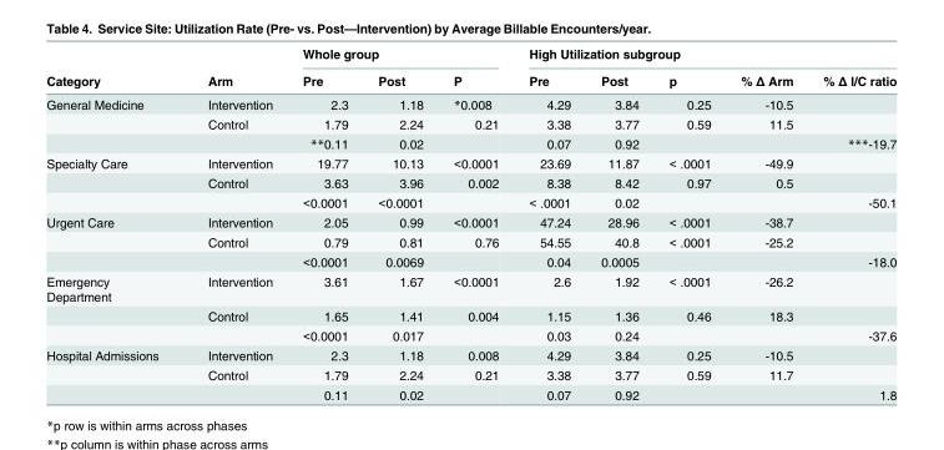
<table><thead><tr><td rowspan="2">Category</td><td rowspan="2">Arm</td><td colspan="3">Whole group</td><td colspan="5">High Utilization subgroup</td></tr><tr><td>Pre</td><td>Post</td><td>P</td><td>Pre</td><td>Post</td><td>p</td><td>% Δ Arm</td><td>% Δ I/C ratio</td></tr></thead><tbody><tr><td rowspan="3">General Medicine</td><td>Intervention</td><td>2.3</td><td>1.18</td><td>*0.008</td><td>4.29</td><td>3.84</td><td>0.25</td><td>-10.5</td><td></td></tr><tr><td>Control</td><td>1.79</td><td>2.24</td><td>0.21</td><td>3.38</td><td>3.77</td><td>0.59</td><td>11.5</td><td></td></tr><tr><td></td><td>**0.11</td><td>0.02</td><td></td><td>0.07</td><td>0.92</td><td></td><td></td><td>***-19.7</td></tr><tr><td rowspan="3">Specialty Care</td><td>Intervention</td><td>19.77</td><td>10.13</td><td>&lt;0.0001</td><td>23.69</td><td>11.87</td><td>&lt; .0001</td><td>-49.9</td><td></td></tr><tr><td>Control</td><td>3.63</td><td>3.96</td><td>0.002</td><td>8.38</td><td>8.42</td><td>0.97</td><td>0.5</td><td></td></tr><tr><td></td><td>&lt;0.0001</td><td>&lt;0.0001</td><td></td><td>&lt; .0001</td><td>0.02</td><td></td><td></td><td>-50.1</td></tr><tr><td rowspan="3">Urgent Care</td><td>Intervention</td><td>2.05</td><td>0.99</td><td>&lt;0.0001</td><td>47.24</td><td>28.96</td><td>&lt; .0001</td><td>-38.7</td><td></td></tr><tr><td>Control</td><td>0.79</td><td>0.81</td><td>0.76</td><td>54.55</td><td>40.8</td><td>&lt; .0001</td><td>-25.2</td><td></td></tr><tr><td></td><td>&lt;0.0001</td><td>0.0069</td><td></td><td>0.04</td><td>0.0005</td><td></td><td></td><td>-18.0</td></tr><tr><td rowspan="3">Emergency Department</td><td>Intervention</td><td>3.61</td><td>1.67</td><td>&lt;0.0001</td><td>2.6</td><td>1.92</td><td>&lt; .0001</td><td>-26.2</td><td></td></tr><tr><td>Control</td><td>1.65</td><td>1.41</td><td>0.004</td><td>1.15</td><td>1.36</td><td>0.46</td><td>18.3</td><td></td></tr><tr><td></td><td>&lt;0.0001</td><td>0.017</td><td></td><td>0.03</td><td>0.24</td><td></td><td></td><td>-37.6</td></tr><tr><td rowspan="3">Hospital Admissions</td><td>Intervention</td><td>2.3</td><td>1.18</td><td>0.008</td><td>4.29</td><td>3.84</td><td>0.25</td><td>-10.5</td><td></td></tr><tr><td>Control</td><td>1.79</td><td>2.24</td><td>0.21</td><td>3.38</td><td>3.77</td><td>0.59</td><td>11.7</td><td></td></tr><tr><td></td><td>0.11</td><td>0.02</td><td></td><td>0.07</td><td>0.92</td><td></td><td></td><td>1.8</td></tr></tbody></table>